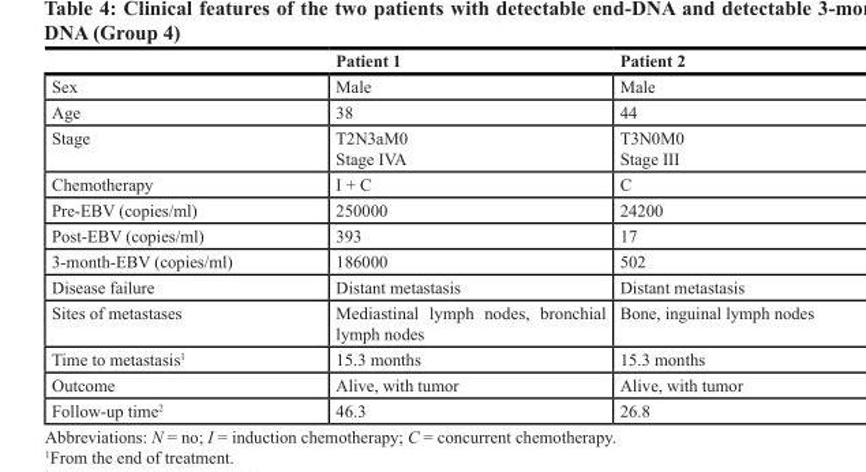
<table><thead><tr><td></td><td>Patient 1</td><td>Patient 2</td></tr></thead><tbody><tr><td>Sex</td><td>Male</td><td>Male</td></tr><tr><td>Age</td><td>38</td><td>44</td></tr><tr><td>Stage</td><td>T2N3aM0 Stage IVA</td><td>T3N0M0 Stage III</td></tr><tr><td>Chemotherapy</td><td>I + C</td><td>C</td></tr><tr><td>Pre-EBV (copies/ml)</td><td>250000</td><td>24200</td></tr><tr><td>Post-EBV (copies/ml)</td><td>393</td><td>17</td></tr><tr><td>3-month-EBV (copies/ml)</td><td>186000</td><td>502</td></tr><tr><td>Disease failure</td><td>Distant metastasis</td><td>Distant metastasis</td></tr><tr><td>Sites of metastases</td><td>Mediastinal lymph nodes, bronchial lymph nodes</td><td>Bone, inguinal lymph nodes</td></tr><tr><td>Time to metastasis<sup>1</sup></td><td>15.3 months</td><td>15.3 months</td></tr><tr><td>Outcome</td><td>Alive, with tumor</td><td>Alive, with tumor</td></tr><tr><td>Follow-up time<sup>2</sup></td><td>46.3</td><td>26.8</td></tr></tbody></table>